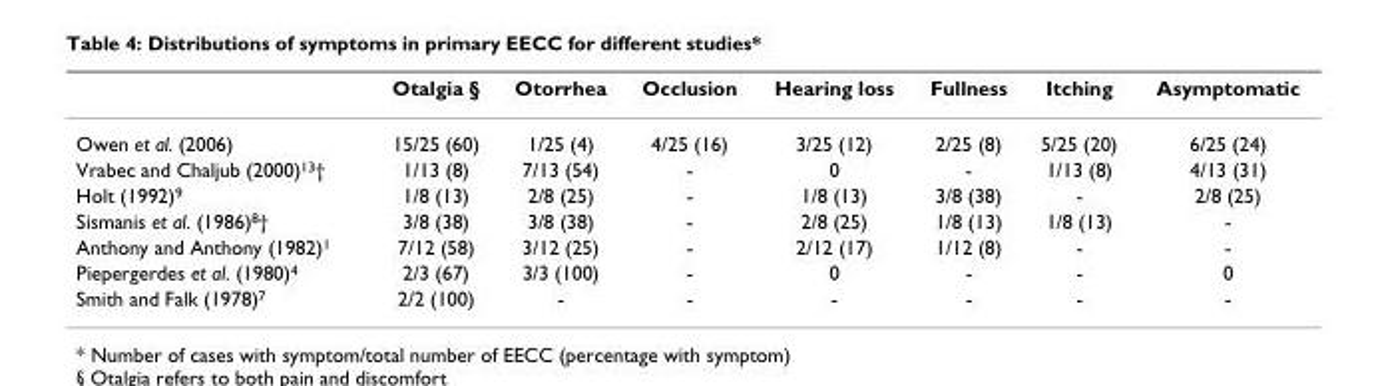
<table><thead><tr><td></td><td>Otalgia §</td><td>Otorrhea</td><td>Occlusion</td><td>Hearing loss</td><td>Fullness</td><td>Itching</td><td>Asymptomatic</td></tr></thead><tbody><tr><td>Owen et al. (2006)</td><td>15/25 (60)</td><td>1/25 (4)</td><td>4/25 (16)</td><td>3/25 (12)</td><td>2/25 (8)</td><td>5/25 (20)</td><td>6/25 (24)</td></tr><tr><td>Vrabec and Chaljub (2000)<sup>13</sup>†</td><td>1/13 (8)</td><td>7/13 (54)</td><td>-</td><td>0</td><td>-</td><td>1/13 (8)</td><td>4/13 (31)</td></tr><tr><td>Holt (1992)<sup>9</sup></td><td>1/8 (13)</td><td>2/8 (25)</td><td>-</td><td>1/8 (13)</td><td>3/8 (38)</td><td>-</td><td>2/8 (25)</td></tr><tr><td>Sismanis et al. (1986)<sup>8</sup>†</td><td>3/8 (38)</td><td>3/8 (38)</td><td>-</td><td>2/8 (25)</td><td>1/8 (13)</td><td>1/8 (13)</td><td>-</td></tr><tr><td>Anthony and Anthony (1982)<sup>1</sup></td><td>7/12 (58)</td><td>3/12 (25)</td><td>-</td><td>2/12 (17)</td><td>1/12 (8)</td><td>-</td><td>-</td></tr><tr><td>Piepergerdes et al. (1980)<sup>4</sup></td><td>2/3 (67)</td><td>3/3 (100)</td><td>-</td><td>0</td><td>-</td><td>-</td><td>0</td></tr><tr><td>Smith and Falk (1978)<sup>7</sup></td><td>2/2 (100)</td><td>-</td><td>-</td><td>-</td><td>-</td><td>-</td><td>-</td></tr></tbody></table>